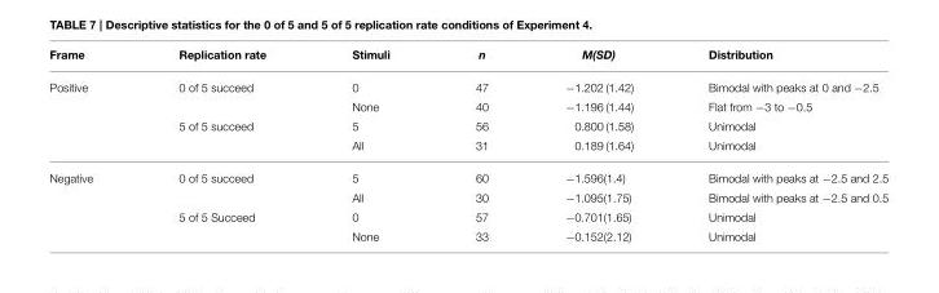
<table><thead><tr><td>Frame</td><td>Replication rate</td><td>Stimuli</td><td>n</td><td>M(SD)</td><td>Distribution</td></tr></thead><tbody><tr><td rowspan="4">Positive</td><td>0 of 5 succeed</td><td>0</td><td>47</td><td>−1.202 (1.42)</td><td>Bimodal with peaks at 0 and −2.5</td></tr><tr><td></td><td>None</td><td>40</td><td>−1.196 (1.44)</td><td>Flat from −3 to −0.5</td></tr><tr><td>5 of 5 succeed</td><td>5</td><td>56</td><td>0.800 (1.58)</td><td>Unimodal</td></tr><tr><td></td><td>All</td><td>31</td><td>0.189 (1.64)</td><td>Unimodal</td></tr><tr><td rowspan="4">Negative</td><td>0 of 5 succeed</td><td>5</td><td>60</td><td>−1.596(1.4)</td><td>Bimodal with peaks at −2.5 and 2.5</td></tr><tr><td></td><td>All</td><td>30</td><td>−1.095(1.75)</td><td>Bimodal with peaks at −2.5 and 0.5</td></tr><tr><td>5 of 5 Succeed</td><td>0</td><td>57</td><td>−0.701(1.65)</td><td>Unimodal</td></tr><tr><td></td><td>None</td><td>33</td><td>−0.152(2.12)</td><td>Unimodal</td></tr></tbody></table>